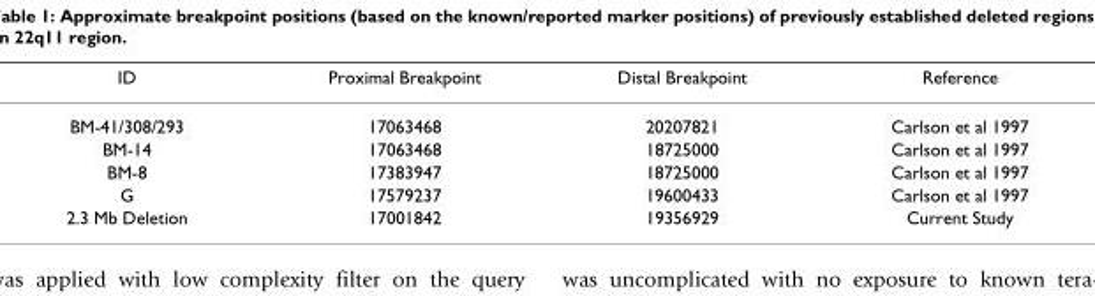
<table><thead><tr><td>ID</td><td>Proximal Breakpoint</td><td>Distal Breakpoint</td><td>Reference</td></tr></thead><tbody><tr><td>BM-41/308/293</td><td>17063468</td><td>20207821</td><td>Carlson et al 1997</td></tr><tr><td>BM-14</td><td>17063468</td><td>18725000</td><td>Carlson et al 1997</td></tr><tr><td>BM-8</td><td>17383947</td><td>18725000</td><td>Carlson et al 1997</td></tr><tr><td>G</td><td>17579237</td><td>19600433</td><td>Carlson et al 1997</td></tr><tr><td>2.3 Mb Deletion</td><td>17001842</td><td>19356929</td><td>Current Study</td></tr></tbody></table>